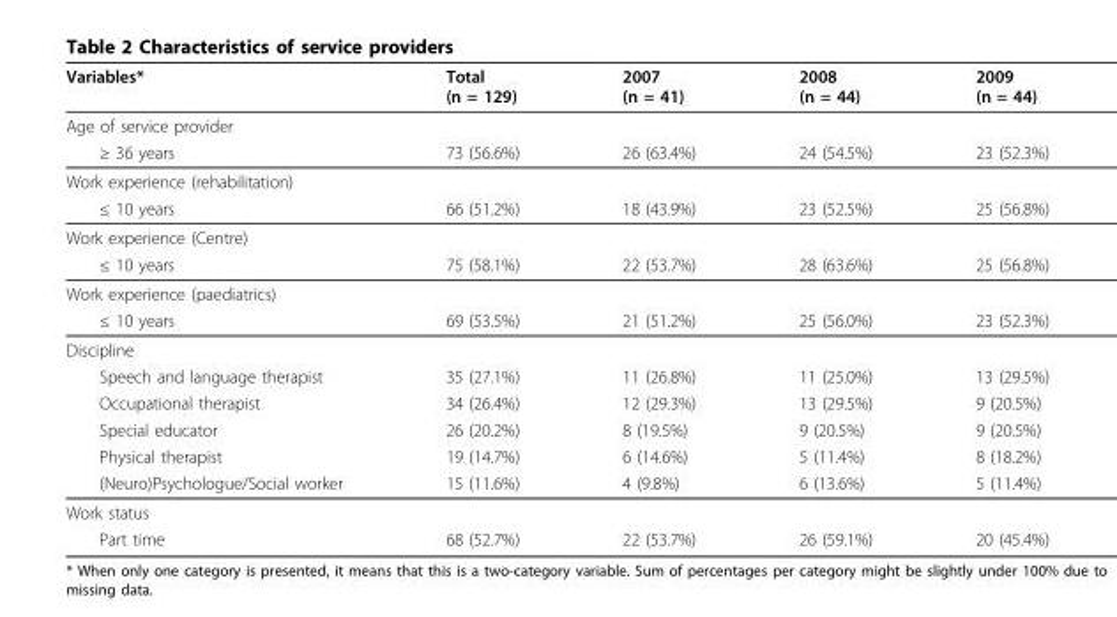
<table><thead><tr><td>Variables*</td><td>Total (n = 129)</td><td>2007 (n = 41)</td><td>2008 (n = 44)</td><td>2009 (n = 44)</td></tr></thead><tbody><tr><td colspan="5">Age of service provider</td></tr><tr><td>≥ 36 years</td><td>73 (56.6%)</td><td>26 (63.4%)</td><td>24 (54.5%)</td><td>23 (52.3%)</td></tr><tr><td colspan="5">Work experience (rehabilitation)</td></tr><tr><td>≤ 10 years</td><td>66 (51.2%)</td><td>18 (43.9%)</td><td>23 (52.5%)</td><td>25 (56.8%)</td></tr><tr><td colspan="5">Work experience (Centre)</td></tr><tr><td>≤ 10 years</td><td>75 (58.1%)</td><td>22 (53.7%)</td><td>28 (63.6%)</td><td>25 (56.8%)</td></tr><tr><td colspan="5">Work experience (paediatrics)</td></tr><tr><td>≤ 10 years</td><td>69 (53.5%)</td><td>21 (51.2%)</td><td>25 (56.0%)</td><td>23 (52.3%)</td></tr><tr><td colspan="5">Discipline</td></tr><tr><td>Speech and language therapist</td><td>35 (27.1%)</td><td>11 (26.8%)</td><td>11 (25.0%)</td><td>13 (29.5%)</td></tr><tr><td>Occupational therapist</td><td>34 (26.4%)</td><td>12 (29.3%)</td><td>13 (29.5%)</td><td>9 (20.5%)</td></tr><tr><td>Special educator</td><td>26 (20.2%)</td><td>8 (19.5%)</td><td>9 (20.5%)</td><td>9 (20.5%)</td></tr><tr><td>Physical therapist</td><td>19 (14.7%)</td><td>6 (14.6%)</td><td>5 (11.4%)</td><td>8 (18.2%)</td></tr><tr><td>(Neuro)Psychologue/Social worker</td><td>15 (11.6%)</td><td>4 (9.8%)</td><td>6 (13.6%)</td><td>5 (11.4%)</td></tr><tr><td colspan="5">Work status</td></tr><tr><td>Part time</td><td>68 (52.7%)</td><td>22 (53.7%)</td><td>26 (59.1%)</td><td>20 (45.4%)</td></tr></tbody></table>